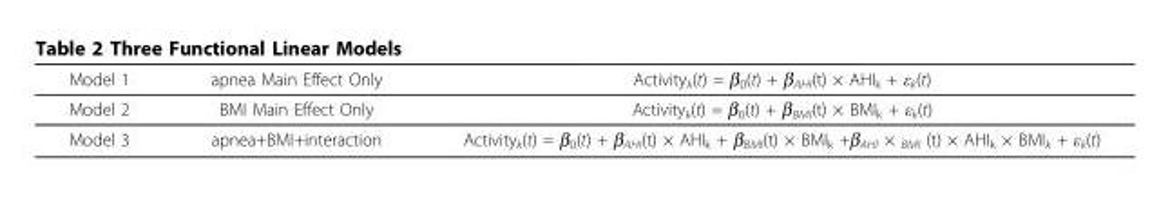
<table><thead><tr><td>Model 1</td><td>apnea Main Effect Only</td><td>Activity<sub>k</sub>(t) = β<sub>0</sub>(t) + β<sub>AHI</sub>(t) × AHI<sub>k</sub> + ε<sub>k</sub>(t)</td></tr></thead><tbody><tr><td>Model 2</td><td>BMI Main Effect Only</td><td>Activity<sub>k</sub>(t) = β<sub>0</sub>(t) + β<sub>BMI</sub>(t) × BMI<sub>k</sub> + ε<sub>k</sub>(t)</td></tr><tr><td>Model 3</td><td>apnea+BMI+interaction</td><td>Activity<sub>k</sub>(t) = β<sub>0</sub>(t) + β<sub>AHI</sub>(t) × AHI<sub>k</sub> + β<sub>BMI</sub>(t) × BMI<sub>k</sub> +β<sub>AHI</sub> × <sub>BMI</sub> (t) × AHI<sub>k</sub> × BMI<sub>k</sub> + ε<sub>k</sub>(t)</td></tr></tbody></table>